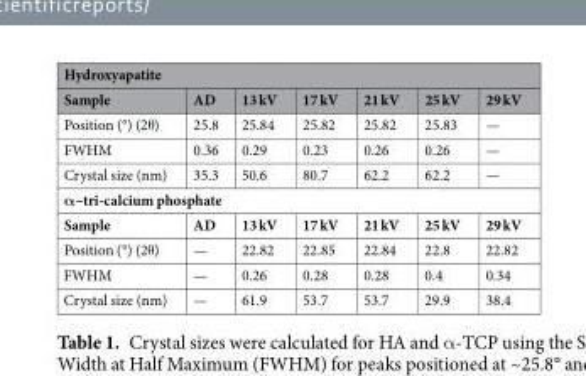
<table><thead><tr><td colspan="7">Hydroxyapatite</td></tr><tr><td>Sample</td><td>AD</td><td>13 kV</td><td>17 kV</td><td>21 kV</td><td>25 kV</td><td>29 kV</td></tr></thead><tbody><tr><td>Position (°) (2θ)</td><td>25.8</td><td>25.84</td><td>25.82</td><td>25.82</td><td>25.83</td><td>—</td></tr><tr><td>FWHM</td><td>0.36</td><td>0.29</td><td>0.23</td><td>0.26</td><td>0.26</td><td>—</td></tr><tr><td>Crystal size (nm)</td><td>35.3</td><td>50.6</td><td>80.7</td><td>62.2</td><td>62.2</td><td>—</td></tr><tr><td colspan="7">α–tri-calcium phosphate</td></tr><tr><td>Sample</td><td>AD</td><td>13 kV</td><td>17 kV</td><td>21 kV</td><td>25 kV</td><td>29 kV</td></tr><tr><td>Position (°) (2θ)</td><td>—</td><td>22.82</td><td>22.85</td><td>22.84</td><td>22.8</td><td>22.82</td></tr><tr><td>FWHM</td><td>—</td><td>0.26</td><td>0.28</td><td>0.28</td><td>0.4</td><td>0.34</td></tr><tr><td>Crystal size (nm)</td><td>—</td><td>61.9</td><td>53.7</td><td>53.7</td><td>29.9</td><td>38.4</td></tr></tbody></table>